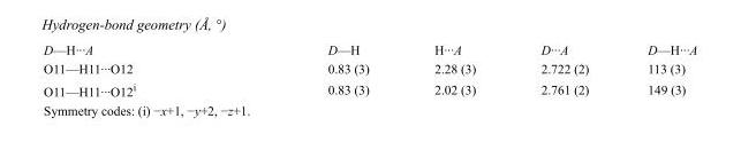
<table><tbody><tr><td>D—H···A</td><td>D—H</td><td>H···A</td><td>D···A</td><td>D—H···A</td></tr><tr><td>O11—H11···O12</td><td>0.83 (3)</td><td>2.28 (3)</td><td>2.722 (2)</td><td>113 (3)</td></tr><tr><td>O11—H11···O12<sup>i</sup></td><td>0.83 (3)</td><td>2.02 (3)</td><td>2.761 (2)</td><td>149 (3)</td></tr></tbody></table>